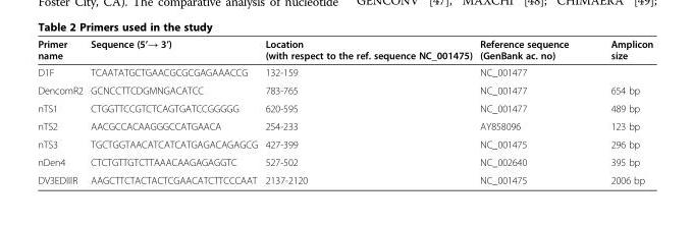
<table><thead><tr><td>Primer name</td><td>Sequence (5’→ 3’)</td><td>Location (with respect to the ref. sequence NC_001475)</td><td>Reference sequence (GenBank ac. no)</td><td>Amplicon size</td></tr></thead><tbody><tr><td>D1F</td><td>TCAATATGCTGAACGCGCGAGAAACCG</td><td>132-159</td><td>NC_001477</td><td></td></tr><tr><td>DencomR2</td><td>GCNCCTTCDGMNGACATCC</td><td>783-765</td><td>NC_001477</td><td>654 bp</td></tr><tr><td>nTS1</td><td>CTGGTTCCGTCTCAGTGATCCGGGGG</td><td>620-595</td><td>NC_001477</td><td>489 bp</td></tr><tr><td>nTS2</td><td>AACGCCACAAGGGCCATGAACA</td><td>254-233</td><td>AY858096</td><td>123 bp</td></tr><tr><td>nTS3</td><td>TGCTGGTAACATCATCATGAGACAGAGCG</td><td>427-399</td><td>NC_001475</td><td>296 bp</td></tr><tr><td>nDen4</td><td>CTCTGTTGTCTTAAACAAGAGAGGTC</td><td>527-502</td><td>NC_002640</td><td>395 bp</td></tr><tr><td>DV3EDIIIR</td><td>AAGCTTCTACTACTCGAACATCTTCCCAAT</td><td>2137-2120</td><td>NC_001475</td><td>2006 bp</td></tr></tbody></table>